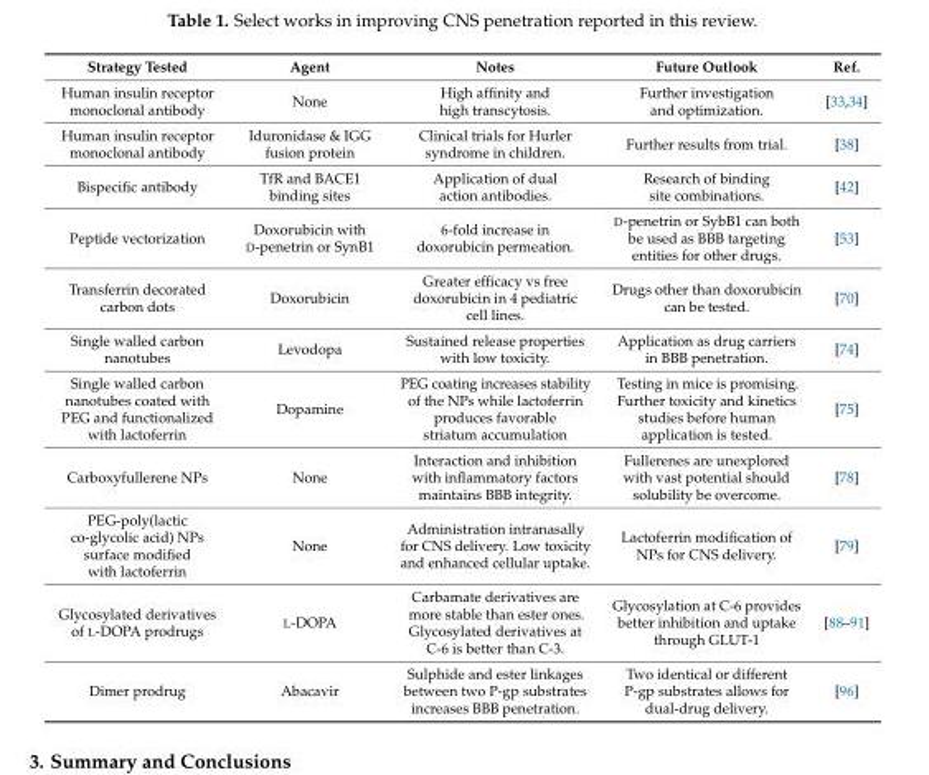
<table><thead><tr><td>Strategy Tested</td><td>Agent</td><td>Notes</td><td>Future Outlook</td><td>Ref.</td></tr></thead><tbody><tr><td>Human insulin receptor monoclonal antibody</td><td>None</td><td>High affinity and high transcytosis.</td><td>Further investigation and optimization.</td><td>[33,34]</td></tr><tr><td>Human insulin receptor monoclonal antibody</td><td>Iduronidase &amp; IGG fusion protein</td><td>Clinical trials for Hurler syndrome in children.</td><td>Further results from trial.</td><td>[38]</td></tr><tr><td>Bispecific antibody</td><td>TfR and BACE1 binding sites</td><td>Application of dual action antibodies.</td><td>Research of binding site combinations.</td><td>[42]</td></tr><tr><td>Peptide vectorization</td><td>Doxorubicin with D-penetrin or SynB1</td><td>6-fold increase in doxorubicin permeation.</td><td>D-penetrin or SybB1 can both be used as BBB targeting entities for other drugs.</td><td>[53]</td></tr><tr><td>Transferrin decorated carbon dots</td><td>Doxorubicin</td><td>Greater efficacy vs free doxorubicin in 4 pediatric cell lines.</td><td>Drugs other than doxorubicin can be tested.</td><td>[70]</td></tr><tr><td>Single walled carbon nanotubes</td><td>Levodopa</td><td>Sustained release properties with low toxicity.</td><td>Application as drug carriers in BBB penetration.</td><td>[74]</td></tr><tr><td>Single walled carbon nanotubes coated with PEG and functionalized with lactoferrin</td><td>Dopamine</td><td>PEG coating increases stability of the NPs while lactoferrin produces favorable striatum accumulation</td><td>Testing in mice is promising. Further toxicity and kinetics studies before human application is tested.</td><td>[75]</td></tr><tr><td>Carboxyfullerene NPs</td><td>None</td><td>Interaction and inhibition with inflammatory factors maintains BBB integrity.</td><td>Fullerenes are unexplored with vast potential should solubility be overcome.</td><td>[78]</td></tr><tr><td>PEG-poly(lactic co-glycolic acid) NPs surface modified with lactoferrin</td><td>None</td><td>Administration intranasally for CNS delivery. Low toxicity and enhanced cellular uptake.</td><td>Lactoferrin modification of NPs for CNS delivery.</td><td>[79]</td></tr><tr><td>Glycosylated derivatives of L-DOPA prodrugs</td><td>L-DOPA</td><td>Carbamate derivatives are more stable than ester ones. Glycosylated derivatives at C-6 is better than C-3.</td><td>Glycosylation at C-6 provides better inhibition and uptake through GLUT-1</td><td>[88–91]</td></tr><tr><td>Dimer prodrug</td><td>Abacavir</td><td>Sulphide and ester linkages between two P-gp substrates increases BBB penetration.</td><td>Two identical or different P-gp substrates allows for dual-drug delivery.</td><td>[96]</td></tr></tbody></table>